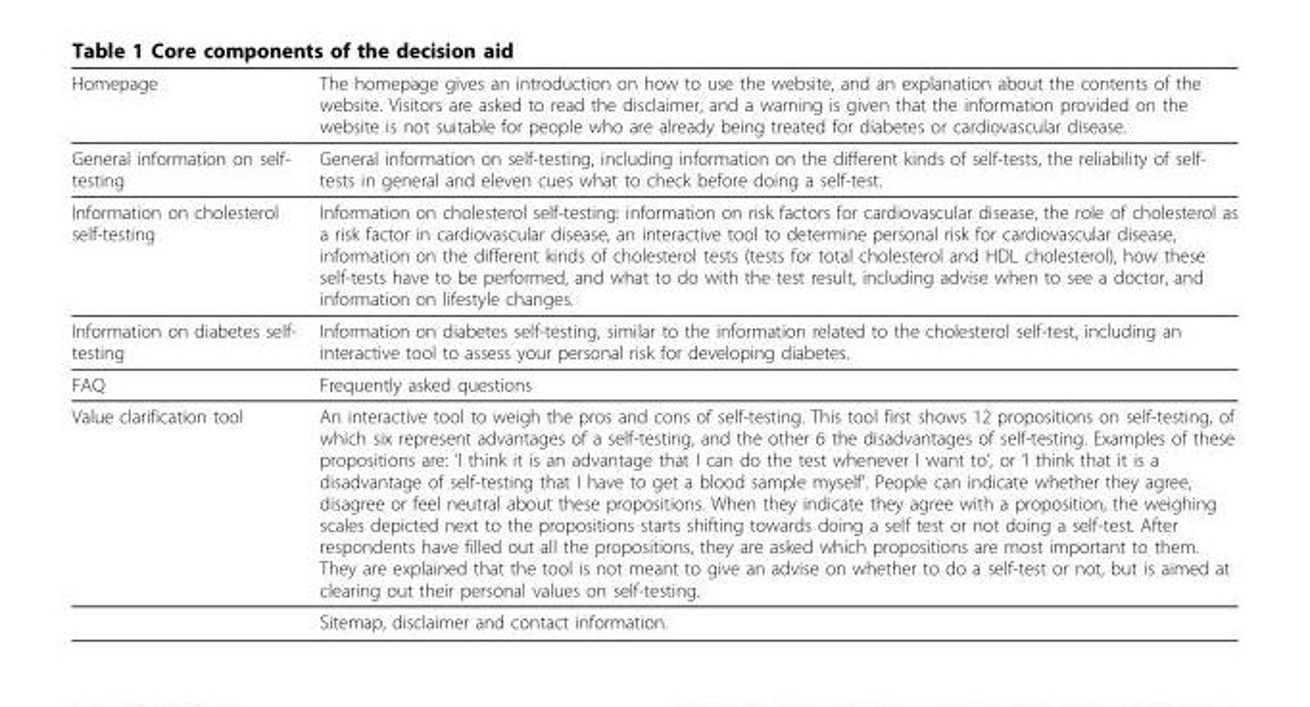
<table><thead><tr><td>Homepage</td><td>The homepage gives an introduction on how to use the website, and an explanation about the contents of the website. Visitors are asked to read the disclaimer, and a warning is given that the information provided on the website is not suitable for people who are already being treated for diabetes or cardiovascular disease.</td></tr></thead><tbody><tr><td>General information on self- testing</td><td>General information on self-testing, including information on the different kinds of self-tests, the reliability of self- tests in general and eleven cues what to check before doing a self-test.</td></tr><tr><td>Information on cholesterol self-testing</td><td>Information on cholesterol self-testing: information on risk factors for cardiovascular disease, the role of cholesterol as a risk factor in cardiovascular disease, an interactive tool to determine personal risk for cardiovascular disease, information on the different kinds of cholesterol tests (tests for total cholesterol and HDL cholesterol), how these self-tests have to be performed, and what to do with the test result, including advise when to see a doctor, and information on lifestyle changes.</td></tr><tr><td>Information on diabetes self- testing</td><td>Information on diabetes self-testing, similar to the information related to the cholesterol self-test, including an interactive tool to assess your personal risk for developing diabetes.</td></tr><tr><td>FAQ</td><td>Frequently asked questions</td></tr><tr><td rowspan="2">Value clarification tool</td><td>An interactive tool to weigh the pros and cons of self-testing. This tool first shows 12 propositions on self-testing, of which six represent advantages of a self-testing, and the other 6 the disadvantages of self-testing. Examples of these propositions are: ‘I think it is an advantage that I can do the test whenever I want to’, or ‘I think that it is a disadvantage of self-testing that I have to get a blood sample myself’. People can indicate whether they agree, disagree or feel neutral about these propositions. When they indicate they agree with a proposition, the weighing scales depicted next to the propositions starts shifting towards doing a self test or not doing a self-test. After respondents have filled out all the propositions, they are asked which propositions are most important to them. They are explained that the tool is not meant to give an advise on whether to do a self-test or not, but is aimed at clearing out their personal values on self-testing.</td></tr><tr><td>Sitemap, disclaimer and contact information.</td></tr></tbody></table>